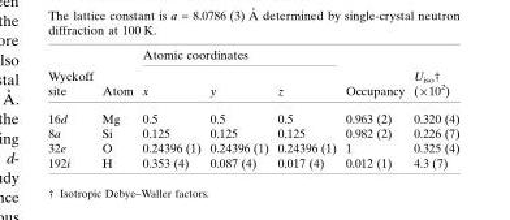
<table><thead><tr><td rowspan="2">Wyckoff site</td><td rowspan="2">Atom</td><td colspan="3">Atomic coordinates</td><td rowspan="2">Occupancy</td><td rowspan="2">U<sub>iso</sub>† (×10<sup>2</sup>)</td></tr><tr><td>x</td><td>y</td><td>z</td></tr></thead><tbody><tr><td>16d</td><td>Mg</td><td>0.5</td><td>0.5</td><td>0.5</td><td>0.963 (2)</td><td>0.320 (4)</td></tr><tr><td>8a</td><td>Si</td><td>0.125</td><td>0.125</td><td>0.125</td><td>0.982 (2)</td><td>0.226 (7)</td></tr><tr><td>32e</td><td>O</td><td>0.24396 (1)</td><td>0.24396 (1)</td><td>0.24396 (1)</td><td>1</td><td>0.325 (4)</td></tr><tr><td>192i</td><td>H</td><td>0.353 (4)</td><td>0.087 (4)</td><td>0.017 (4)</td><td>0.012 (1)</td><td>4.3 (7)</td></tr></tbody></table>